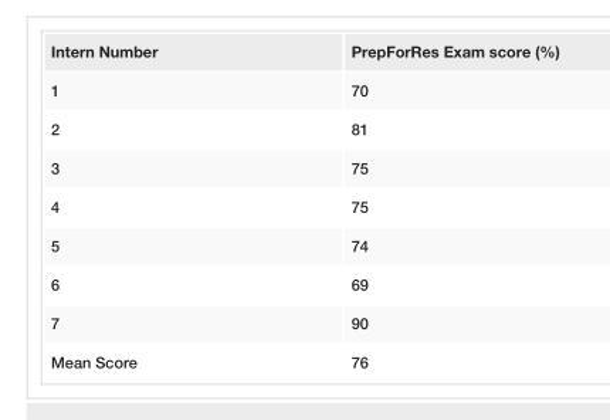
<table><tbody><tr><td>Intern Number</td><td>PrepForRes Exam score (%)</td></tr><tr><td>1</td><td>70</td></tr><tr><td>2</td><td>81</td></tr><tr><td>3</td><td>75</td></tr><tr><td>4</td><td>75</td></tr><tr><td>5</td><td>74</td></tr><tr><td>6</td><td>69</td></tr><tr><td>7</td><td>90</td></tr><tr><td>Mean Score</td><td>76</td></tr></tbody></table>